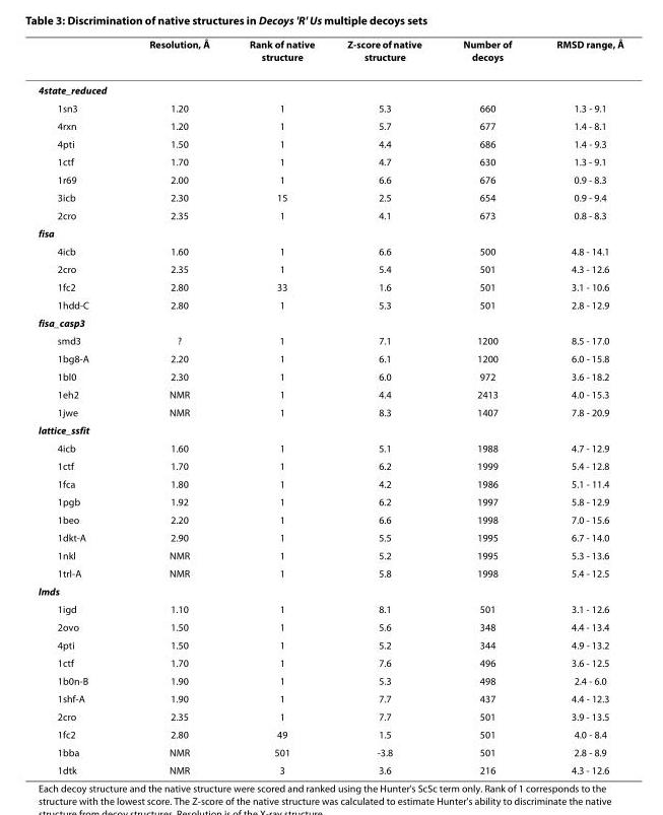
<table><thead><tr><td></td><td>Resolution, Å</td><td>Rank of native structure</td><td>Z-score of native structure</td><td>Number of decoys</td><td>RMSD range, Å</td></tr></thead><tbody><tr><td colspan="6">4state_reduced</td></tr><tr><td>1sn3</td><td>1.20</td><td>1</td><td>5.3</td><td>660</td><td>1.3 - 9.1</td></tr><tr><td>4rxn</td><td>1.20</td><td>1</td><td>5.7</td><td>677</td><td>1.4 - 8.1</td></tr><tr><td>4pti</td><td>1.50</td><td>1</td><td>4.4</td><td>686</td><td>1.4 - 9.3</td></tr><tr><td>1ctf</td><td>1.70</td><td>1</td><td>4.7</td><td>630</td><td>1.3 - 9.1</td></tr><tr><td>1r69</td><td>2.00</td><td>1</td><td>6.6</td><td>676</td><td>0.9 - 8.3</td></tr><tr><td>3icb</td><td>2.30</td><td>15</td><td>2.5</td><td>654</td><td>0.9 - 9.4</td></tr><tr><td>2cro</td><td>2.35</td><td>1</td><td>4.1</td><td>673</td><td>0.8 - 8.3</td></tr><tr><td colspan="6">fisa</td></tr><tr><td>4icb</td><td>1.60</td><td>1</td><td>6.6</td><td>500</td><td>4.8 - 14.1</td></tr><tr><td>2cro</td><td>2.35</td><td>1</td><td>5.4</td><td>501</td><td>4.3 - 12.6</td></tr><tr><td>1fc2</td><td>2.80</td><td>33</td><td>1.6</td><td>501</td><td>3.1 - 10.6</td></tr><tr><td>1hdd-C</td><td>2.80</td><td>1</td><td>5.3</td><td>501</td><td>2.8 - 12.9</td></tr><tr><td colspan="6">fisa_casp3</td></tr><tr><td>smd3</td><td>?</td><td>1</td><td>7.1</td><td>1200</td><td>8.5 - 17.0</td></tr><tr><td>1bg8-A</td><td>2.20</td><td>1</td><td>6.1</td><td>1200</td><td>6.0 - 15.8</td></tr><tr><td>1bl0</td><td>2.30</td><td>1</td><td>6.0</td><td>972</td><td>3.6 - 18.2</td></tr><tr><td>1eh2</td><td>NMR</td><td>1</td><td>4.4</td><td>2413</td><td>4.0 - 15.3</td></tr><tr><td>1jwe</td><td>NMR</td><td>1</td><td>8.3</td><td>1407</td><td>7.8 - 20.9</td></tr><tr><td colspan="6">lattice_ssfit</td></tr><tr><td>4icb</td><td>1.60</td><td>1</td><td>5.1</td><td>1988</td><td>4.7 - 12.9</td></tr><tr><td>1ctf</td><td>1.70</td><td>1</td><td>6.2</td><td>1999</td><td>5.4 - 12.8</td></tr><tr><td>1fca</td><td>1.80</td><td>1</td><td>4.2</td><td>1986</td><td>5.1 - 11.4</td></tr><tr><td>1pgb</td><td>1.92</td><td>1</td><td>6.2</td><td>1997</td><td>5.8 - 12.9</td></tr><tr><td>1beo</td><td>2.20</td><td>1</td><td>6.6</td><td>1998</td><td>7.0 - 15.6</td></tr><tr><td>1dkt-A</td><td>2.90</td><td>1</td><td>5.5</td><td>1995</td><td>6.7 - 14.0</td></tr><tr><td>1nkl</td><td>NMR</td><td>1</td><td>5.2</td><td>1995</td><td>5.3 - 13.6</td></tr><tr><td>1trl-A</td><td>NMR</td><td>1</td><td>5.8</td><td>1998</td><td>5.4 - 12.5</td></tr><tr><td colspan="6">lmds</td></tr><tr><td>1igd</td><td>1.10</td><td>1</td><td>8.1</td><td>501</td><td>3.1 - 12.6</td></tr><tr><td>2ovo</td><td>1.50</td><td>1</td><td>5.6</td><td>348</td><td>4.4 - 13.4</td></tr><tr><td>4pti</td><td>1.50</td><td>1</td><td>5.2</td><td>344</td><td>4.9 - 13.2</td></tr><tr><td>1ctf</td><td>1.70</td><td>1</td><td>7.6</td><td>496</td><td>3.6 - 12.5</td></tr><tr><td>1b0n-B</td><td>1.90</td><td>1</td><td>5.3</td><td>498</td><td>2.4 - 6.0</td></tr><tr><td>1shf-A</td><td>1.90</td><td>1</td><td>7.7</td><td>437</td><td>4.4 - 12.3</td></tr><tr><td>2cro</td><td>2.35</td><td>1</td><td>7.7</td><td>501</td><td>3.9 - 13.5</td></tr><tr><td>1fc2</td><td>2.80</td><td>49</td><td>1.5</td><td>501</td><td>4.0 - 8.4</td></tr><tr><td>1bba</td><td>NMR</td><td>501</td><td>-3.8</td><td>501</td><td>2.8 - 8.9</td></tr><tr><td>1dtk</td><td>NMR</td><td>3</td><td>3.6</td><td>216</td><td>4.3 - 12.6</td></tr></tbody></table>